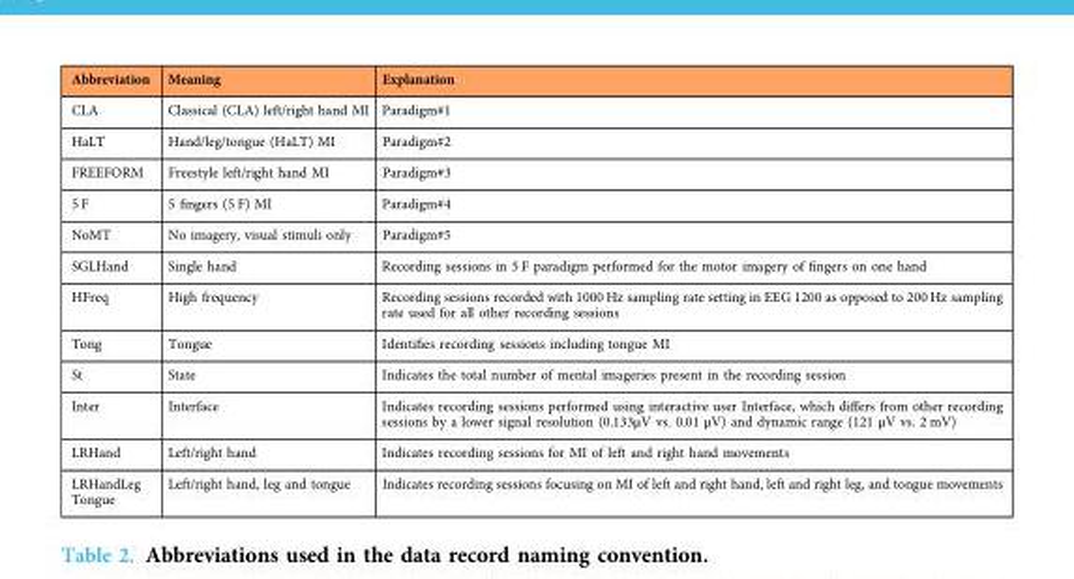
<table><thead><tr><td>Abbreviation</td><td>Meaning</td><td>Explanation</td></tr></thead><tbody><tr><td>CLA</td><td>Classical (CLA) left/right hand MI</td><td>Paradigm#1</td></tr><tr><td>HaLT</td><td>Hand/leg/tongue (HaLT) MI</td><td>Paradigm#2</td></tr><tr><td>FREEFORM</td><td>Freestyle left/right hand MI</td><td>Paradigm#3</td></tr><tr><td>5 F</td><td>5 fingers (5 F) MI</td><td>Paradigm#4</td></tr><tr><td>NoMT</td><td>No imagery, visual stimuli only</td><td>Paradigm#5</td></tr><tr><td>SGLHand</td><td>Single hand</td><td>Recording sessions in 5 F paradigm performed for the motor imagery of fingers on one hand</td></tr><tr><td>HFreq</td><td>High frequency</td><td>Recording sessions recorded with 1000 Hz sampling rate setting in EEG 1200 as opposed to 200 Hz sampling rate used for all other recording sessions</td></tr><tr><td>Tong</td><td>Tongue</td><td>Identifies recording sessions including tongue MI</td></tr><tr><td>St</td><td>State</td><td>Indicates the total number of mental imageries present in the recording session</td></tr><tr><td>Inter</td><td>Interface</td><td>Indicates recording sessions performed using interactive user Interface, which differs from other recording sessions by a lower signal resolution (0.133μV vs. 0.01 μV) and dynamic range (121 μV vs. 2 mV)</td></tr><tr><td>LRHand</td><td>Left/right hand</td><td>Indicates recording sessions for MI of left and right hand movements</td></tr><tr><td>LRHandLeg Tongue</td><td>Left/right hand, leg and tongue</td><td>Indicates recording sessions focusing on MI of left and right hand, left and right leg, and tongue movements</td></tr></tbody></table>